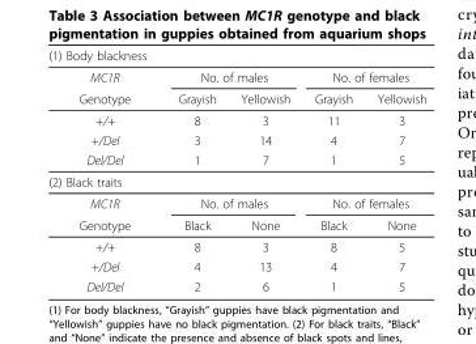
<table><thead><tr><td>(1) Body blackness</td><td></td><td></td><td></td><td></td></tr></thead><tbody><tr><td>MC1R</td><td colspan="2">No. of males</td><td colspan="2">No. of females</td></tr><tr><td>Genotype</td><td>Grayish</td><td>Yellowish</td><td>Grayish</td><td>Yellowish</td></tr><tr><td>+/+</td><td>8</td><td>3</td><td>11</td><td>3</td></tr><tr><td>+/Del</td><td>3</td><td>14</td><td>4</td><td>7</td></tr><tr><td>Del/Del</td><td>1</td><td>7</td><td>1</td><td>5</td></tr><tr><td colspan="5">(2) Black traits</td></tr><tr><td>MC1R</td><td colspan="2">No. of males</td><td colspan="2">No. of females</td></tr><tr><td>Genotype</td><td>Black</td><td>None</td><td>Black</td><td>None</td></tr><tr><td>+/+</td><td>8</td><td>3</td><td>8</td><td>5</td></tr><tr><td>+/Del</td><td>4</td><td>13</td><td>4</td><td>7</td></tr><tr><td>Del/Del</td><td>2</td><td>6</td><td>1</td><td>5</td></tr></tbody></table>